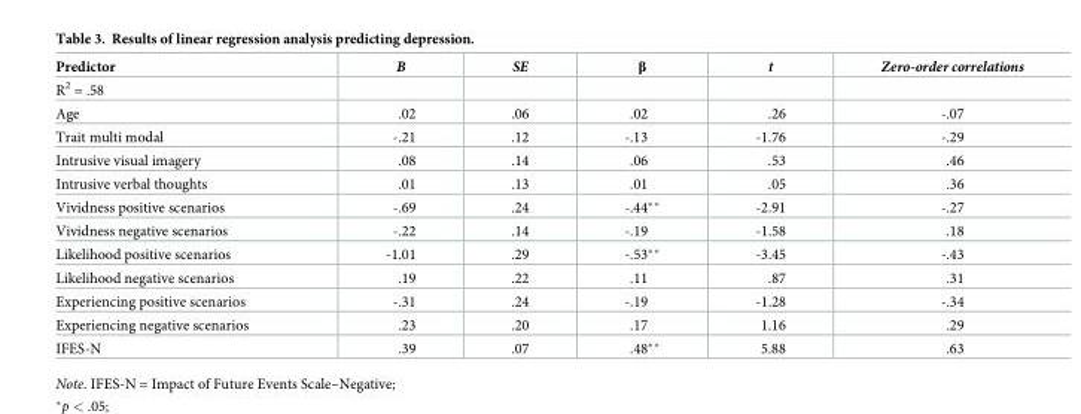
<table><thead><tr><td>Predictor</td><td>B</td><td>SE</td><td>β</td><td>t</td><td>Zero-order correlations</td></tr></thead><tbody><tr><td colspan="6">R<sup>2</sup> = .58</td></tr><tr><td>Age</td><td>.02</td><td>.06</td><td>.02</td><td>.26</td><td>-.07</td></tr><tr><td>Trait multi modal</td><td>-.21</td><td>.12</td><td>-.13</td><td>-1.76</td><td>-.29</td></tr><tr><td>Intrusive visual imagery</td><td>.08</td><td>.14</td><td>.06</td><td>.53</td><td>.46</td></tr><tr><td>Intrusive verbal thoughts</td><td>.01</td><td>.13</td><td>.01</td><td>.05</td><td>.36</td></tr><tr><td>Vividness positive scenarios</td><td>-.69</td><td>.24</td><td>-.44**</td><td>-2.91</td><td>-.27</td></tr><tr><td>Vividness negative scenarios</td><td>-.22</td><td>.14</td><td>-.19</td><td>-1.58</td><td>.18</td></tr><tr><td>Likelihood positive scenarios</td><td>-1.01</td><td>.29</td><td>-.53**</td><td>-3.45</td><td>-.43</td></tr><tr><td>Likelihood negative scenarios</td><td>.19</td><td>.22</td><td>.11</td><td>.87</td><td>.31</td></tr><tr><td>Experiencing positive scenarios</td><td>-.31</td><td>.24</td><td>-.19</td><td>-1.28</td><td>-.34</td></tr><tr><td>Experiencing negative scenarios</td><td>.23</td><td>.20</td><td>.17</td><td>1.16</td><td>.29</td></tr><tr><td>IFES-N</td><td>.39</td><td>.07</td><td>.48**</td><td>5.88</td><td>.63</td></tr></tbody></table>